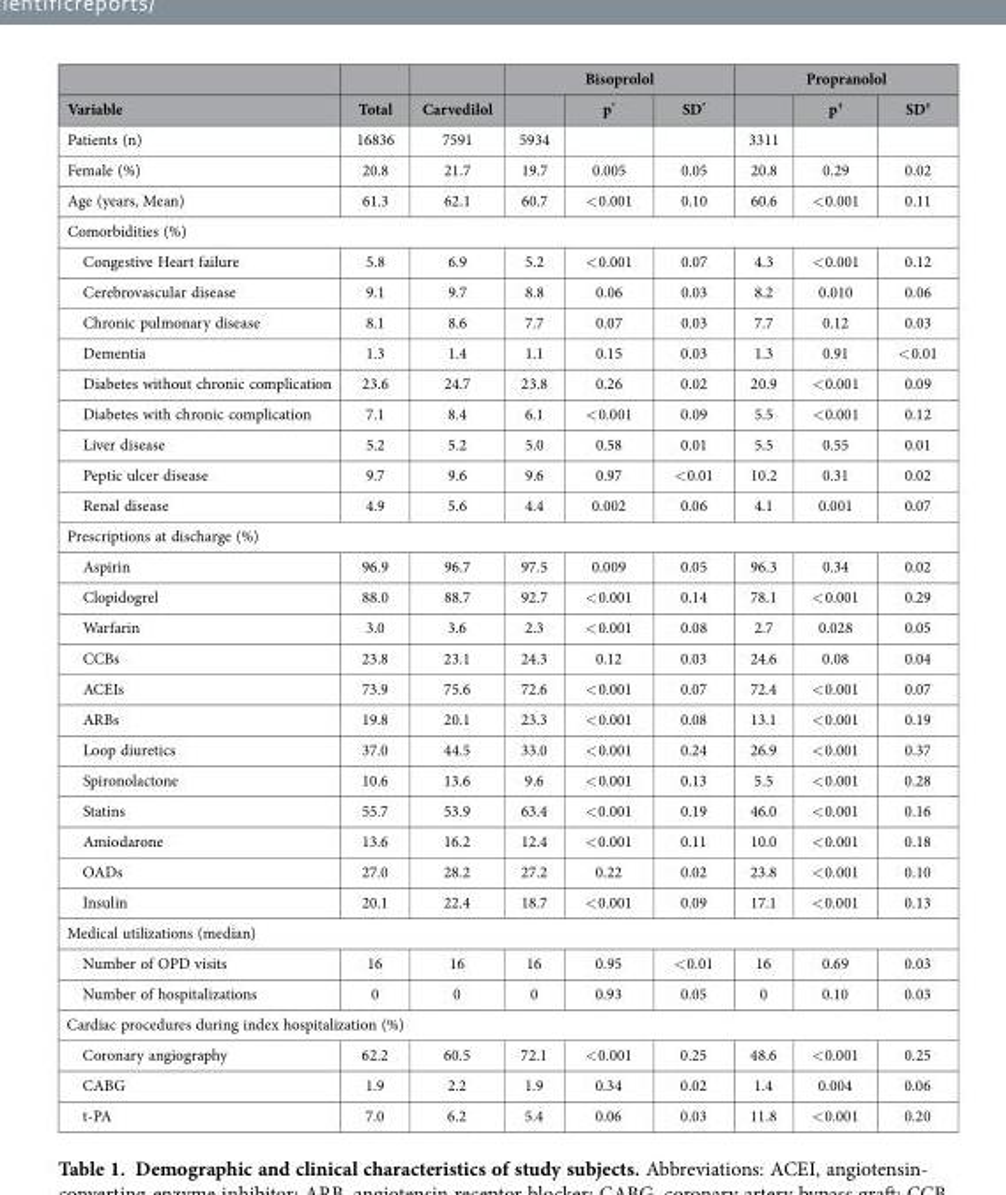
<table><thead><tr><td rowspan="2">Variable</td><td rowspan="2">Total</td><td rowspan="2">Carvedilol</td><td colspan="3">Bisoprolol</td><td colspan="3">Propranolol</td></tr><tr><td></td><td>p*</td><td>SD*</td><td></td><td>p†</td><td>SD†</td></tr></thead><tbody><tr><td>Patients (n)</td><td>16836</td><td>7591</td><td>5934</td><td></td><td></td><td>3311</td><td></td><td></td></tr><tr><td>Female (%)</td><td>20.8</td><td>21.7</td><td>19.7</td><td>0.005</td><td>0.05</td><td>20.8</td><td>0.29</td><td>0.02</td></tr><tr><td>Age (years, Mean)</td><td>61.3</td><td>62.1</td><td>60.7</td><td>&lt; 0.001</td><td>0.10</td><td>60.6</td><td>&lt; 0.001</td><td>0.11</td></tr><tr><td colspan="9">Comorbidities (%)</td></tr><tr><td>Congestive Heart failure</td><td>5.8</td><td>6.9</td><td>5.2</td><td>&lt; 0.001</td><td>0.07</td><td>4.3</td><td>&lt; 0.001</td><td>0.12</td></tr><tr><td>Cerebrovascular disease</td><td>9.1</td><td>9.7</td><td>8.8</td><td>0.06</td><td>0.03</td><td>8.2</td><td>0.010</td><td>0.06</td></tr><tr><td>Chronic pulmonary disease</td><td>8.1</td><td>8.6</td><td>7.7</td><td>0.07</td><td>0.03</td><td>7.7</td><td>0.12</td><td>0.03</td></tr><tr><td>Dementia</td><td>1.3</td><td>1.4</td><td>1.1</td><td>0.15</td><td>0.03</td><td>1.3</td><td>0.91</td><td>&lt; 0.01</td></tr><tr><td>Diabetes without chronic complication</td><td>23.6</td><td>24.7</td><td>23.8</td><td>0.26</td><td>0.02</td><td>20.9</td><td>&lt; 0.001</td><td>0.09</td></tr><tr><td>Diabetes with chronic complication</td><td>7.1</td><td>8.4</td><td>6.1</td><td>&lt; 0.001</td><td>0.09</td><td>5.5</td><td>&lt; 0.001</td><td>0.12</td></tr><tr><td>Liver disease</td><td>5.2</td><td>5.2</td><td>5.0</td><td>0.58</td><td>0.01</td><td>5.5</td><td>0.55</td><td>0.01</td></tr><tr><td>Peptic ulcer disease</td><td>9.7</td><td>9.6</td><td>9.6</td><td>0.97</td><td>&lt; 0.01</td><td>10.2</td><td>0.31</td><td>0.02</td></tr><tr><td>Renal disease</td><td>4.9</td><td>5.6</td><td>4.4</td><td>0.002</td><td>0.06</td><td>4.1</td><td>0.001</td><td>0.07</td></tr><tr><td colspan="9">Prescriptions at discharge (%)</td></tr><tr><td>Aspirin</td><td>96.9</td><td>96.7</td><td>97.5</td><td>0.009</td><td>0.05</td><td>96.3</td><td>0.34</td><td>0.02</td></tr><tr><td>Clopidogrel</td><td>88.0</td><td>88.7</td><td>92.7</td><td>&lt; 0.001</td><td>0.14</td><td>78.1</td><td>&lt; 0.001</td><td>0.29</td></tr><tr><td>Warfarin</td><td>3.0</td><td>3.6</td><td>2.3</td><td>&lt; 0.001</td><td>0.08</td><td>2.7</td><td>0.028</td><td>0.05</td></tr><tr><td>CCBs</td><td>23.8</td><td>23.1</td><td>24.3</td><td>0.12</td><td>0.03</td><td>24.6</td><td>0.08</td><td>0.04</td></tr><tr><td>ACEIs</td><td>73.9</td><td>75.6</td><td>72.6</td><td>&lt; 0.001</td><td>0.07</td><td>72.4</td><td>&lt; 0.001</td><td>0.07</td></tr><tr><td>ARBs</td><td>19.8</td><td>20.1</td><td>23.3</td><td>&lt; 0.001</td><td>0.08</td><td>13.1</td><td>&lt; 0.001</td><td>0.19</td></tr><tr><td>Loop diuretics</td><td>37.0</td><td>44.5</td><td>33.0</td><td>&lt; 0.001</td><td>0.24</td><td>26.9</td><td>&lt; 0.001</td><td>0.37</td></tr><tr><td>Spironolactone</td><td>10.6</td><td>13.6</td><td>9.6</td><td>&lt; 0.001</td><td>0.13</td><td>5.5</td><td>&lt; 0.001</td><td>0.28</td></tr><tr><td>Statins</td><td>55.7</td><td>53.9</td><td>63.4</td><td>&lt; 0.001</td><td>0.19</td><td>46.0</td><td>&lt; 0.001</td><td>0.16</td></tr><tr><td>Amiodarone</td><td>13.6</td><td>16.2</td><td>12.4</td><td>&lt; 0.001</td><td>0.11</td><td>10.0</td><td>&lt; 0.001</td><td>0.18</td></tr><tr><td>OADs</td><td>27.0</td><td>28.2</td><td>27.2</td><td>0.22</td><td>0.02</td><td>23.8</td><td>&lt; 0.001</td><td>0.10</td></tr><tr><td>Insulin</td><td>20.1</td><td>22.4</td><td>18.7</td><td>&lt; 0.001</td><td>0.09</td><td>17.1</td><td>&lt; 0.001</td><td>0.13</td></tr><tr><td colspan="9">Medical utilizations (median)</td></tr><tr><td>Number of OPD visits</td><td>16</td><td>16</td><td>16</td><td>0.95</td><td>&lt; 0.01</td><td>16</td><td>0.69</td><td>0.03</td></tr><tr><td>Number of hospitalizations</td><td>0</td><td>0</td><td>0</td><td>0.93</td><td>0.05</td><td>0</td><td>0.10</td><td>0.03</td></tr><tr><td colspan="9">Cardiac procedures during index hospitalization (%)</td></tr><tr><td>Coronary angiography</td><td>62.2</td><td>60.5</td><td>72.1</td><td>&lt; 0.001</td><td>0.25</td><td>48.6</td><td>&lt; 0.001</td><td>0.25</td></tr><tr><td>CABG</td><td>1.9</td><td>2.2</td><td>1.9</td><td>0.34</td><td>0.02</td><td>1.4</td><td>0.004</td><td>0.06</td></tr><tr><td>t-PA</td><td>7.0</td><td>6.2</td><td>5.4</td><td>0.06</td><td>0.03</td><td>11.8</td><td>&lt; 0.001</td><td>0.20</td></tr></tbody></table>